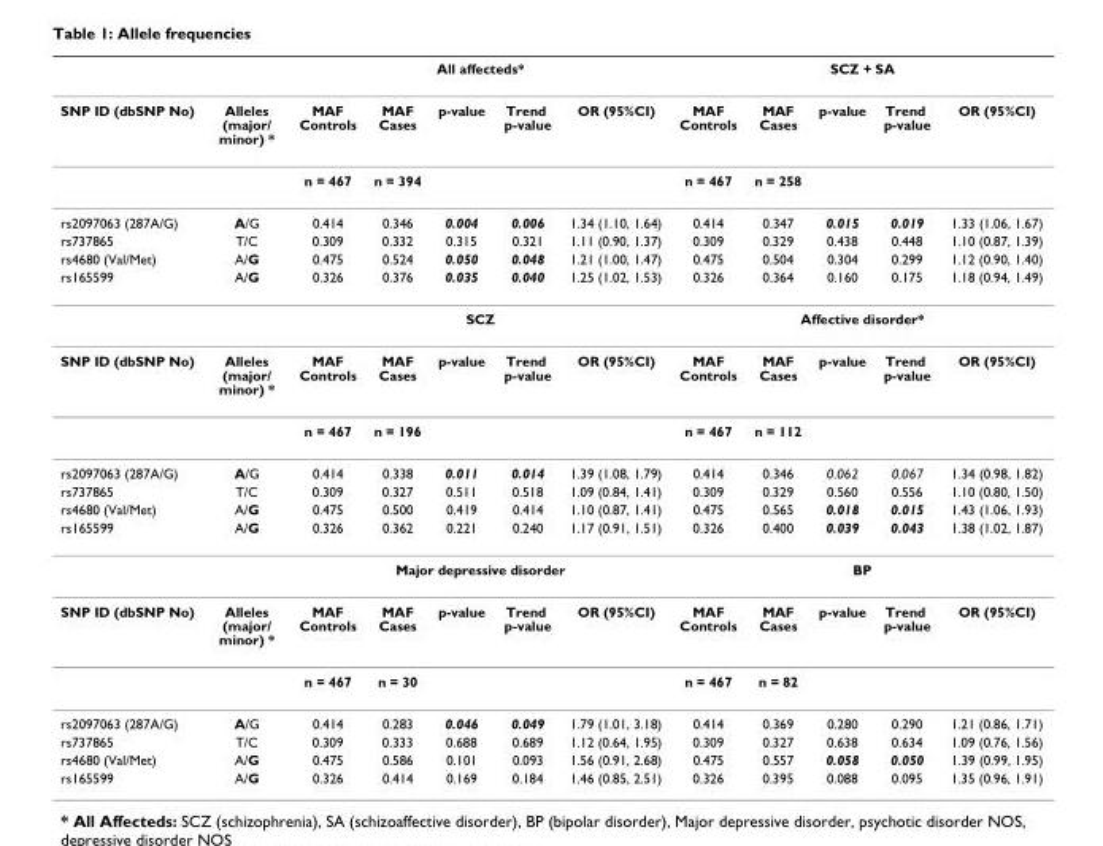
<table><thead><tr><td rowspan="2">SNP ID (dbSNP No)</td><td rowspan="2">Alleles (major/ minor) *</td><td colspan="5">All affecteds*</td><td colspan="5">SCZ + SA</td></tr><tr><td>MAF Controls</td><td>MAF Cases</td><td>p-value</td><td>Trend p-value</td><td>OR (95%CI)</td><td>MAF Controls</td><td>MAF Cases</td><td>p-value</td><td>Trend p-value</td><td>OR (95%CI)</td></tr></thead><tbody><tr><td></td><td></td><td>n = 467</td><td>n = 394</td><td></td><td></td><td></td><td>n = 467</td><td>n = 258</td><td></td><td></td><td></td></tr><tr><td>rs2097063 (287A/G)</td><td>A/G</td><td>0.414</td><td>0.346</td><td>0.004</td><td>0.006</td><td>1.34 (1.10, 1.64)</td><td>0.414</td><td>0.347</td><td>0.015</td><td>0.019</td><td>1.33 (1.06, 1.67)</td></tr><tr><td>rs737865</td><td>T/C</td><td>0.309</td><td>0.332</td><td>0.315</td><td>0.321</td><td>1.11 (0.90, 1.37)</td><td>0.309</td><td>0.329</td><td>0.438</td><td>0.448</td><td>1.10 (0.87, 1.39)</td></tr><tr><td>rs4680 (Val/Met)</td><td>A/G</td><td>0.475</td><td>0.524</td><td>0.050</td><td>0.048</td><td>1.21 (1.00, 1.47)</td><td>0.475</td><td>0.504</td><td>0.304</td><td>0.299</td><td>1.12 (0.90, 1.40)</td></tr><tr><td rowspan="2">rs165599</td><td>A/G</td><td>0.326</td><td>0.376</td><td>0.035</td><td>0.040</td><td>1.25 (1.02, 1.53)</td><td>0.326</td><td>0.364</td><td>0.160</td><td>0.175</td><td>1.18 (0.94, 1.49)</td></tr><tr><td></td><td colspan="5">SCZ</td><td colspan="5">Affective disorder*</td></tr><tr><td rowspan="2">SNP ID (dbSNP No)</td><td>Alleles (major/ minor) *</td><td>MAF Controls</td><td>MAF Cases</td><td>p-value</td><td>Trend p-value</td><td>OR (95%CI)</td><td>MAF Controls</td><td>MAF Cases</td><td>p-value</td><td>Trend p-value</td><td>OR (95%CI)</td></tr><tr><td></td><td>n = 467</td><td>n = 196</td><td></td><td></td><td></td><td>n = 467</td><td>n = 112</td><td></td><td></td><td></td></tr><tr><td>rs2097063 (287A/G)</td><td>A/G</td><td>0.414</td><td>0.338</td><td>0.011</td><td>0.014</td><td>1.39 (1.08, 1.79)</td><td>0.414</td><td>0.346</td><td>0.062</td><td>0.067</td><td>1.34 (0.98, 1.82)</td></tr><tr><td>rs737865</td><td>T/C</td><td>0.309</td><td>0.327</td><td>0.511</td><td>0.518</td><td>1.09 (0.84, 1.41)</td><td>0.309</td><td>0.329</td><td>0.560</td><td>0.556</td><td>1.10 (0.80, 1.50)</td></tr><tr><td>rs4680 (Val/Met)</td><td>A/G</td><td>0.475</td><td>0.500</td><td>0.419</td><td>0.414</td><td>1.10 (0.87, 1.41)</td><td>0.475</td><td>0.565</td><td>0.018</td><td>0.015</td><td>1.43 (1.06, 1.93)</td></tr><tr><td rowspan="2">rs165599</td><td>A/G</td><td>0.326</td><td>0.362</td><td>0.221</td><td>0.240</td><td>1.17 (0.91, 1.51)</td><td>0.326</td><td>0.400</td><td>0.039</td><td>0.043</td><td>1.38 (1.02, 1.87)</td></tr><tr><td></td><td colspan="5">Major depressive disorder</td><td colspan="5">BP</td></tr><tr><td rowspan="2">SNP ID (dbSNP No)</td><td>Alleles (major/ minor) *</td><td>MAF Controls</td><td>MAF Cases</td><td>p-value</td><td>Trend p-value</td><td>OR (95%CI)</td><td>MAF Controls</td><td>MAF Cases</td><td>p-value</td><td>Trend p-value</td><td>OR (95%CI)</td></tr><tr><td></td><td>n = 467</td><td>n = 30</td><td></td><td></td><td></td><td>n = 467</td><td>n = 82</td><td></td><td></td><td></td></tr><tr><td>rs2097063 (287A/G)</td><td>A/G</td><td>0.414</td><td>0.283</td><td>0.046</td><td>0.049</td><td>1.79 (1.01, 3.18)</td><td>0.414</td><td>0.369</td><td>0.280</td><td>0.290</td><td>1.21 (0.86, 1.71)</td></tr><tr><td>rs737865</td><td>T/C</td><td>0.309</td><td>0.333</td><td>0.688</td><td>0.689</td><td>1.12 (0.64, 1.95)</td><td>0.309</td><td>0.327</td><td>0.638</td><td>0.634</td><td>1.09 (0.76, 1.56)</td></tr><tr><td>rs4680 (Val/Met)</td><td>A/G</td><td>0.475</td><td>0.586</td><td>0.101</td><td>0.093</td><td>1.56 (0.91, 2.68)</td><td>0.475</td><td>0.557</td><td>0.058</td><td>0.050</td><td>1.39 (0.99, 1.95)</td></tr><tr><td>rs165599</td><td>A/G</td><td>0.326</td><td>0.414</td><td>0.169</td><td>0.184</td><td>1.46 (0.85, 2.51)</td><td>0.326</td><td>0.395</td><td>0.088</td><td>0.095</td><td>1.35 (0.96, 1.91)</td></tr></tbody></table>